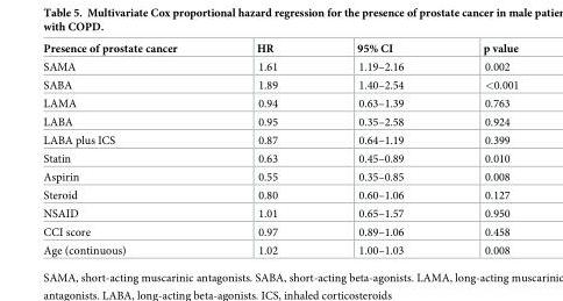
<table><thead><tr><td>Presence of prostate cancer</td><td>HR</td><td>95% CI</td><td>p value</td></tr></thead><tbody><tr><td>SAMA</td><td>1.61</td><td>1.19–2.16</td><td>0.002</td></tr><tr><td>SABA</td><td>1.89</td><td>1.40–2.54</td><td>&lt;0.001</td></tr><tr><td>LAMA</td><td>0.94</td><td>0.63–1.39</td><td>0.763</td></tr><tr><td>LABA</td><td>0.95</td><td>0.35–2.58</td><td>0.924</td></tr><tr><td>LABA plus ICS</td><td>0.87</td><td>0.64–1.19</td><td>0.399</td></tr><tr><td>Statin</td><td>0.63</td><td>0.45–0.89</td><td>0.010</td></tr><tr><td>Aspirin</td><td>0.55</td><td>0.35–0.85</td><td>0.008</td></tr><tr><td>Steroid</td><td>0.80</td><td>0.60–1.06</td><td>0.127</td></tr><tr><td>NSAID</td><td>1.01</td><td>0.65–1.57</td><td>0.950</td></tr><tr><td>CCI score</td><td>0.97</td><td>0.89–1.06</td><td>0.458</td></tr><tr><td>Age (continuous)</td><td>1.02</td><td>1.00–1.03</td><td>0.008</td></tr></tbody></table>